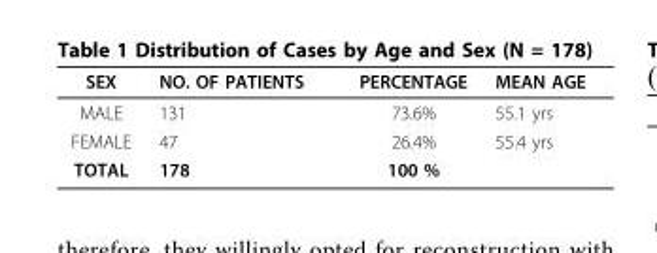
<table><thead><tr><td>SEX</td><td>NO. OF PATIENTS</td><td>PERCENTAGE</td><td>MEAN AGE</td></tr></thead><tbody><tr><td>MALE</td><td>131</td><td>73.6%</td><td>55.1 yrs</td></tr><tr><td>FEMALE</td><td>47</td><td>26.4%</td><td>55.4 yrs</td></tr><tr><td>TOTAL</td><td>178</td><td>100 %</td><td></td></tr></tbody></table>